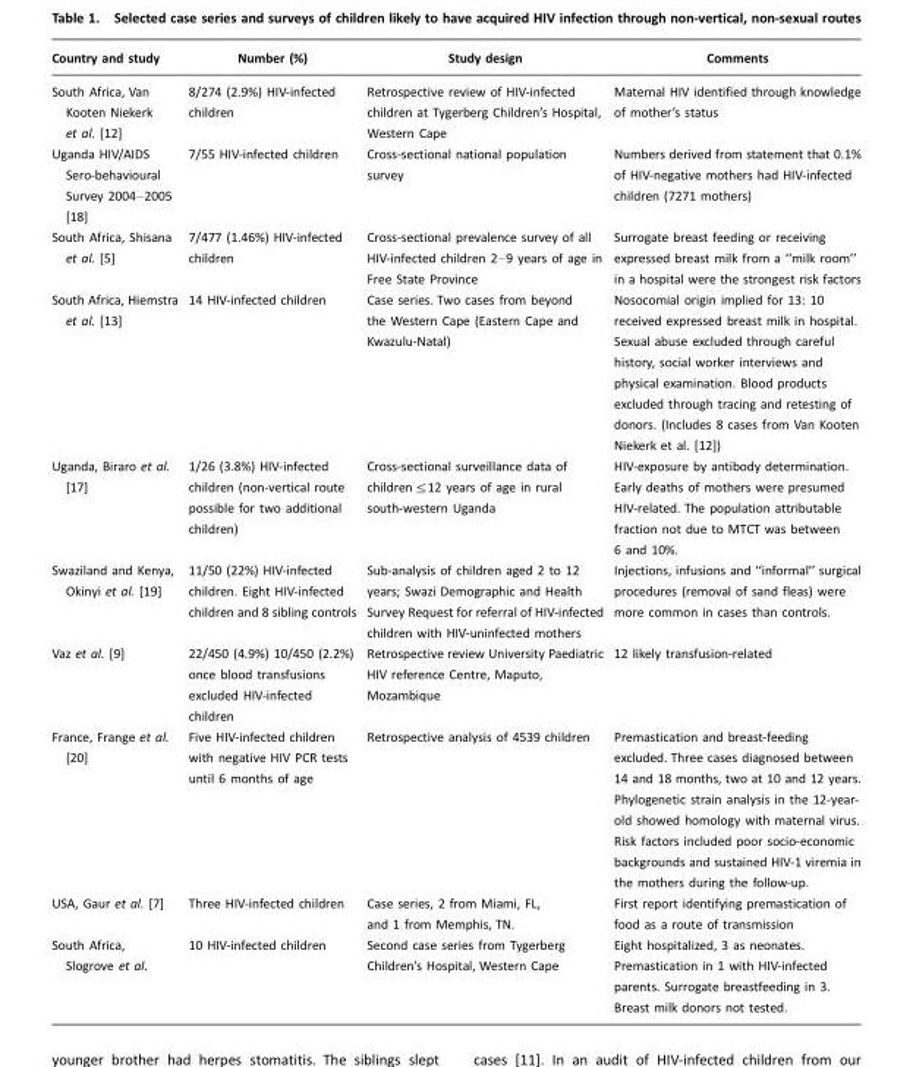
<table><thead><tr><td>Country and study</td><td>Number (%)</td><td>Study design</td><td>Comments</td></tr></thead><tbody><tr><td>South Africa, Van Kooten Niekerk et al. [12]</td><td>8/274 (2.9%) HIV-infected children</td><td>Retrospective review of HIV-infected children at Tygerberg Children’s Hospital, Western Cape</td><td>Maternal HIV identified through knowledge of mother’s status</td></tr><tr><td>Uganda HIV/AIDS Sero-behavioural Survey 2004–2005 [18]</td><td>7/55 HIV-infected children</td><td>Cross-sectional national population survey</td><td>Numbers derived from statement that 0.1% of HIV-negative mothers had HIV-infected children (7271 mothers)</td></tr><tr><td>South Africa, Shisana et al. [5]</td><td>7/477 (1.46%) HIV-infected children</td><td>Cross-sectional prevalence survey of all HIV-infected children 2–9 years of age in Free State Province</td><td>Surrogate breast feeding or receiving expressed breast milk from a ‘‘milk room’’ in a hospital were the strongest risk factors</td></tr><tr><td>South Africa, Hiemstra et al. [13]</td><td>14 HIV-infected children</td><td>Case series. Two cases from beyond the Western Cape (Eastern Cape and Kwazulu-Natal)</td><td>Nosocomial origin implied for 13: 10 received expressed breast milk in hospital. Sexual abuse excluded through careful history, social worker interviews and physical examination. Blood products excluded through tracing and retesting of donors. (Includes 8 cases from Van Kooten Niekerk et al. [12])</td></tr><tr><td>Uganda, Biraro et al. [17]</td><td>1/26 (3.8%) HIV-infected children (non-vertical route possible for two additional children)</td><td>Cross-sectional surveillance data of children≤12 years of age in rural south-western Uganda</td><td>HIV-exposure by antibody determination. Early deaths of mothers were presumed HIV-related. The population attributable fraction not due to MTCT was between 6 and 10%.</td></tr><tr><td>Swaziland and Kenya, Okinyi et al. [19]</td><td>11/50 (22%) HIV-infected children. Eight HIV-infected children and 8 sibling controls</td><td>Sub-analysis of children aged 2 to 12 years; Swazi Demographic and Health Survey Request for referral of HIV-infected children with HIV-uninfected mothers</td><td>Injections, infusions and ‘‘informal’’ surgical procedures (removal of sand fleas) were more common in cases than controls.</td></tr><tr><td>Vaz et al. [9]</td><td>22/450 (4.9%) 10/450 (2.2%) once blood transfusions excluded HIV-infected children</td><td>Retrospective review University Paediatric HIV reference Centre, Maputo, Mozambique</td><td>12 likely transfusion-related</td></tr><tr><td>France, Frange et al. [20]</td><td>Five HIV-infected children with negative HIV PCR tests until 6 months of age</td><td>Retrospective analysis of 4539 children</td><td>Premastication and breast-feeding excluded. Three cases diagnosed between 14 and 18 months, two at 10 and 12 years. Phylogenetic strain analysis in the 12-year- old showed homology with maternal virus. Risk factors included poor socio-economic backgrounds and sustained HIV-1 viremia in the mothers during the follow-up.</td></tr><tr><td>USA, Gaur et al. [7]</td><td>Three HIV-infected children</td><td>Case series, 2 from Miami, FL, and 1 from Memphis, TN.</td><td>First report identifying premastication of food as a route of transmission</td></tr><tr><td>South Africa, Slogrove et al.</td><td>10 HIV-infected children</td><td>Second case series from Tygerberg Children’s Hospital, Western Cape</td><td>Eight hospitalized, 3 as neonates. Premastication in 1 with HIV-infected parents. Surrogate breastfeeding in 3. Breast milk donors not tested.</td></tr></tbody></table>